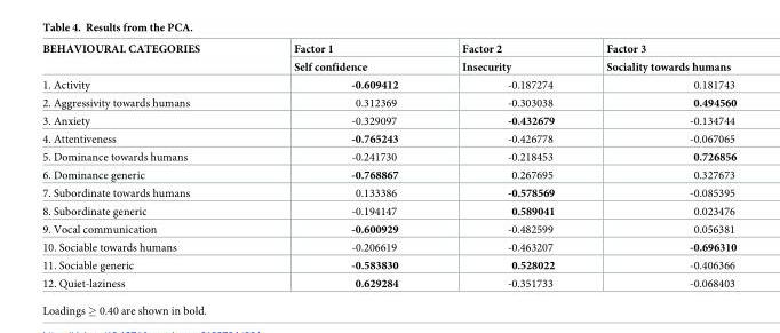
<table><thead><tr><td rowspan="2">BEHAVIOURAL CATEGORIES</td><td rowspan="2">Factor 1 Self confidence</td><td rowspan="2">Factor 2 Insecurity</td><td rowspan="2">Factor 3 Sociality towards humans</td></tr><tr></tr></thead><tbody><tr><td>1. Activity</td><td>-0.609412</td><td>-0.187274</td><td>0.181743</td></tr><tr><td>2. Aggressivity towards humans</td><td>0.312369</td><td>-0.303038</td><td>0.494560</td></tr><tr><td>3. Anxiety</td><td>-0.329097</td><td>-0.432679</td><td>-0.134744</td></tr><tr><td>4. Attentiveness</td><td>-0.765243</td><td>-0.426778</td><td>-0.067065</td></tr><tr><td>5. Dominance towards humans</td><td>-0.241730</td><td>-0.218453</td><td>0.726856</td></tr><tr><td>6. Dominance generic</td><td>-0.768867</td><td>0.267695</td><td>0.327673</td></tr><tr><td>7. Subordinate towards humans</td><td>0.133386</td><td>-0.578569</td><td>-0.085395</td></tr><tr><td>8. Subordinate generic</td><td>-0.194147</td><td>0.589041</td><td>0.023476</td></tr><tr><td>9. Vocal communication</td><td>-0.600929</td><td>-0.482599</td><td>0.056381</td></tr><tr><td>10. Sociable towards humans</td><td>-0.206619</td><td>-0.463207</td><td>-0.696310</td></tr><tr><td>11. Sociable generic</td><td>-0.583830</td><td>0.528022</td><td>-0.406366</td></tr><tr><td>12. Quiet-laziness</td><td>0.629284</td><td>-0.351733</td><td>-0.068403</td></tr></tbody></table>